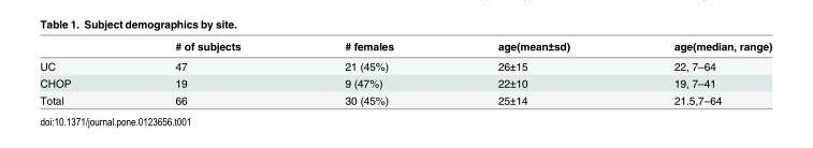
<table><thead><tr><td></td><td># of subjects</td><td># females</td><td>age(mean±sd)</td><td>age(median, range)</td></tr></thead><tbody><tr><td>UC</td><td>47</td><td>21 (45%)</td><td>26±15</td><td>22, 7–64</td></tr><tr><td>CHOP</td><td>19</td><td>9 (47%)</td><td>22±10</td><td>19, 7–41</td></tr><tr><td>Total</td><td>66</td><td>30 (45%)</td><td>25±14</td><td>21.5,7–64</td></tr></tbody></table>